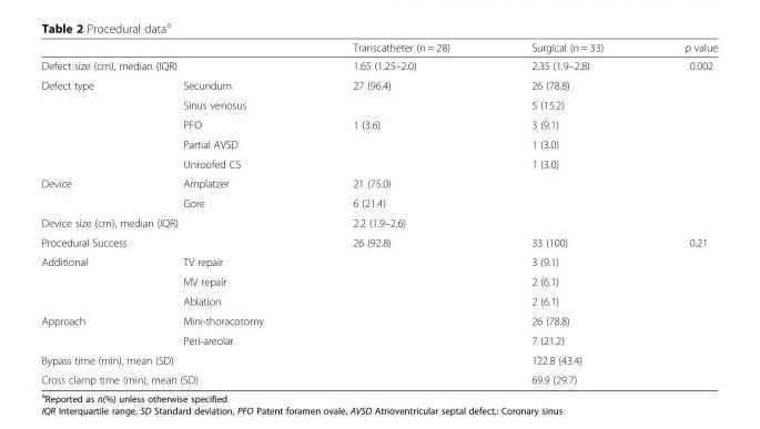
<table><thead><tr><td></td><td></td><td>Transcatheter (n = 28)</td><td>Surgical (n = 33)</td><td>p value</td></tr></thead><tbody><tr><td colspan="2">Defect size (cm), median (IQR)</td><td>1.65 (1.25–2.0)</td><td>2.35 (1.9–2.8)</td><td>0.002</td></tr><tr><td rowspan="5">Defect type</td><td>Secundum</td><td>27 (96.4)</td><td>26 (78.8)</td><td></td></tr><tr><td>Sinus venosus</td><td></td><td>5 (15.2)</td><td></td></tr><tr><td>PFO</td><td>1 (3.6)</td><td>3 (9.1)</td><td></td></tr><tr><td>Partial AVSD</td><td></td><td>1 (3.0)</td><td></td></tr><tr><td>Unroofed CS</td><td></td><td>1 (3.0)</td><td></td></tr><tr><td rowspan="2">Device</td><td>Amplatzer</td><td>21 (75.0)</td><td></td><td></td></tr><tr><td>Gore</td><td>6 (21.4)</td><td></td><td></td></tr><tr><td colspan="2">Device size (cm), median (IQR)</td><td>2.2 (1.9–2.6)</td><td></td><td></td></tr><tr><td colspan="2">Procedural Success</td><td>26 (92.8)</td><td>33 (100)</td><td>0.21</td></tr><tr><td rowspan="3">Additional</td><td>TV repair</td><td></td><td>3 (9.1)</td><td></td></tr><tr><td>MV repair</td><td></td><td>2 (6.1)</td><td></td></tr><tr><td>Ablation</td><td></td><td>2 (6.1)</td><td></td></tr><tr><td rowspan="2">Approach</td><td>Mini-thoracotomy</td><td></td><td>26 (78.8)</td><td></td></tr><tr><td>Peri-areolar</td><td></td><td>7 (21.2)</td><td></td></tr><tr><td colspan="2">Bypass time (min), mean (SD)</td><td></td><td>122.8 (43.4)</td><td></td></tr><tr><td colspan="2">Cross clamp time (min), mean (SD)</td><td></td><td>69.9 (29.7)</td><td></td></tr></tbody></table>